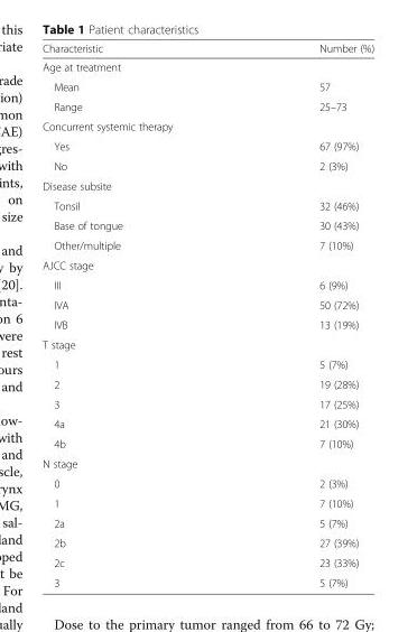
<table><thead><tr><td>Characteristic</td><td>Number (%)</td></tr></thead><tbody><tr><td colspan="2">Age at treatment</td></tr><tr><td>Mean</td><td>57</td></tr><tr><td>Range</td><td>25–73</td></tr><tr><td colspan="2">Concurrent systemic therapy</td></tr><tr><td>Yes</td><td>67 (97%)</td></tr><tr><td>No</td><td>2 (3%)</td></tr><tr><td colspan="2">Disease subsite</td></tr><tr><td>Tonsil</td><td>32 (46%)</td></tr><tr><td>Base of tongue</td><td>30 (43%)</td></tr><tr><td>Other/multiple</td><td>7 (10%)</td></tr><tr><td colspan="2">AJCC stage</td></tr><tr><td>III</td><td>6 (9%)</td></tr><tr><td>IVA</td><td>50 (72%)</td></tr><tr><td>IVB</td><td>13 (19%)</td></tr><tr><td colspan="2">T stage</td></tr><tr><td>1</td><td>5 (7%)</td></tr><tr><td>2</td><td>19 (28%)</td></tr><tr><td>3</td><td>17 (25%)</td></tr><tr><td>4a</td><td>21 (30%)</td></tr><tr><td>4b</td><td>7 (10%)</td></tr><tr><td colspan="2">N stage</td></tr><tr><td>0</td><td>2 (3%)</td></tr><tr><td>1</td><td>7 (10%)</td></tr><tr><td>2a</td><td>5 (7%)</td></tr><tr><td>2b</td><td>27 (39%)</td></tr><tr><td>2c</td><td>23 (33%)</td></tr><tr><td>3</td><td>5 (7%)</td></tr></tbody></table>